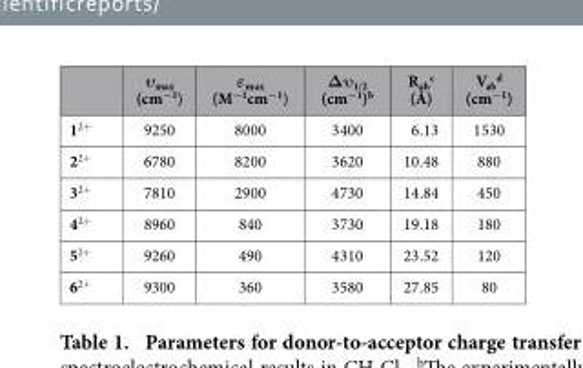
<table><thead><tr><td></td><td>υ<sub>max</sub> (cm<sup>−1</sup>)</td><td>ε<sub>max</sub> (M<sup>−1</sup>cm<sup>−1</sup>)</td><td>Δυ<sub>1/2</sub> (cm<sup>−1</sup>)<sup>b</sup></td><td>R<sub>ab</sub> <sup>c</sup> (Å)</td><td>V<sub>ab</sub> <sup>d</sup> (cm<sup>−1</sup>)</td></tr></thead><tbody><tr><td>1<sup>2+</sup></td><td>9250</td><td>8000</td><td>3400</td><td>6.13</td><td>1530</td></tr><tr><td>2<sup>2+</sup></td><td>6780</td><td>8200</td><td>3620</td><td>10.48</td><td>880</td></tr><tr><td>3<sup>2+</sup></td><td>7810</td><td>2900</td><td>4730</td><td>14.84</td><td>450</td></tr><tr><td>4<sup>2+</sup></td><td>8960</td><td>840</td><td>3730</td><td>19.18</td><td>180</td></tr><tr><td>5<sup>2+</sup></td><td>9260</td><td>490</td><td>4310</td><td>23.52</td><td>120</td></tr><tr><td>6<sup>2+</sup></td><td>9300</td><td>360</td><td>3580</td><td>27.85</td><td>80</td></tr></tbody></table>